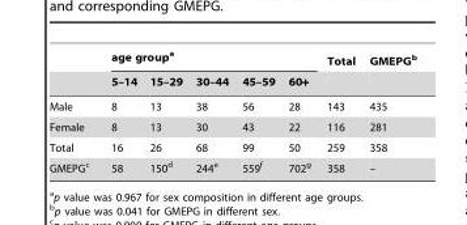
<table><thead><tr><td rowspan="2"></td><td colspan="5">age group<sup>a</sup></td><td rowspan="2">Total</td><td rowspan="2">GMEPG<sup>b</sup></td></tr><tr><td>5–14</td><td>15–29</td><td>30–44</td><td>45–59</td><td>60+</td></tr></thead><tbody><tr><td>Male</td><td>8</td><td>13</td><td>38</td><td>56</td><td>28</td><td>143</td><td>435</td></tr><tr><td>Female</td><td>8</td><td>13</td><td>30</td><td>43</td><td>22</td><td>116</td><td>281</td></tr><tr><td>Total</td><td>16</td><td>26</td><td>68</td><td>99</td><td>50</td><td>259</td><td>358</td></tr><tr><td>GMEPG<sup>c</sup></td><td>58</td><td>150<sup>d</sup></td><td>244<sup>e</sup></td><td>559<sup>f</sup></td><td>702<sup>g</sup></td><td>358</td><td>–</td></tr></tbody></table>